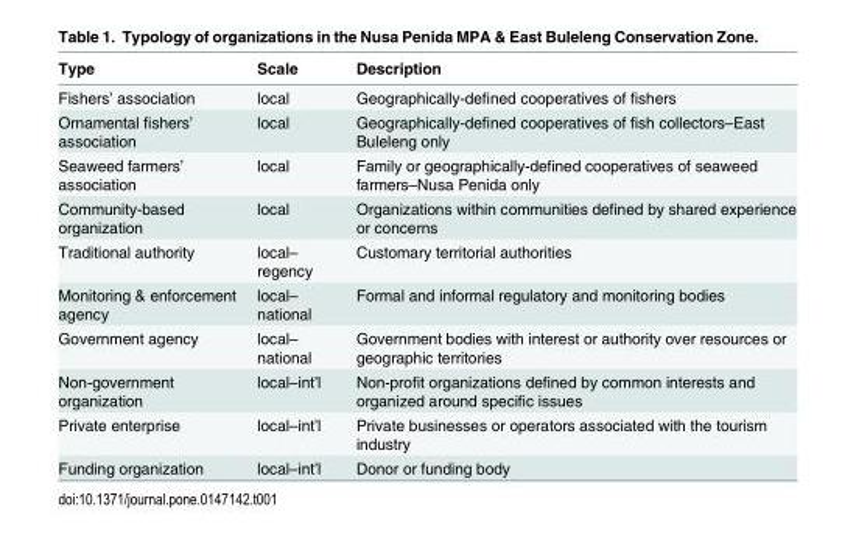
<table><thead><tr><td>Type</td><td>Scale</td><td>Description</td></tr></thead><tbody><tr><td>Fishers’ association</td><td>local</td><td>Geographically-defined cooperatives of fishers</td></tr><tr><td>Ornamental fishers’ association</td><td>local</td><td>Geographically-defined cooperatives of fish collectors–East Buleleng only</td></tr><tr><td>Seaweed farmers’ association</td><td>local</td><td>Family or geographically-defined cooperatives of seaweed farmers–Nusa Penida only</td></tr><tr><td>Community-based organization</td><td>local</td><td>Organizations within communities defined by shared experience or concerns</td></tr><tr><td>Traditional authority</td><td>local– regency</td><td>Customary territorial authorities</td></tr><tr><td>Monitoring &amp; enforcement agency</td><td>local– national</td><td>Formal and informal regulatory and monitoring bodies</td></tr><tr><td>Government agency</td><td>local– national</td><td>Government bodies with interest or authority over resources or geographic territories</td></tr><tr><td>Non-government organization</td><td>local–int’l</td><td>Non-profit organizations defined by common interests and organized around specific issues</td></tr><tr><td>Private enterprise</td><td>local–int’l</td><td>Private businesses or operators associated with the tourism industry</td></tr><tr><td>Funding organization</td><td>local–int’l</td><td>Donor or funding body</td></tr></tbody></table>